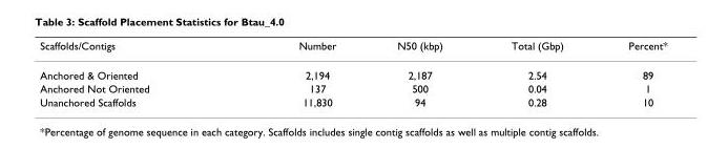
<table><thead><tr><td>Scaffolds/Contigs</td><td>Number</td><td>N50 (kbp)</td><td>Total (Gbp)</td><td>Percent*</td></tr></thead><tbody><tr><td>Anchored &amp; Oriented</td><td>2,194</td><td>2,187</td><td>2.54</td><td>89</td></tr><tr><td>Anchored Not Oriented</td><td>137</td><td>500</td><td>0.04</td><td>1</td></tr><tr><td>Unanchored Scaffolds</td><td>11,830</td><td>94</td><td>0.28</td><td>10</td></tr></tbody></table>